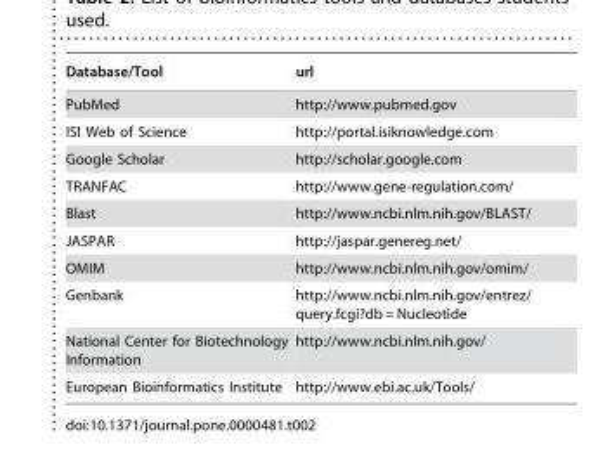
<table><thead><tr><td>Database/Tool</td><td>url</td></tr></thead><tbody><tr><td>PubMed</td><td>http://www.pubmed.gov</td></tr><tr><td>ISI Web of Science</td><td>http://portal.isiknowledge.com</td></tr><tr><td>Google Scholar</td><td>http://scholar.google.com</td></tr><tr><td>TRANFAC</td><td>http://www.gene-regulation.com/</td></tr><tr><td>Blast</td><td>http://www.ncbi.nlm.nih.gov/BLAST/</td></tr><tr><td>JASPAR</td><td>http://jaspar.genereg.net/</td></tr><tr><td>OMIM</td><td>http://www.ncbi.nlm.nih.gov/omim/</td></tr><tr><td>Genbank</td><td>http://www.ncbi.nlm.nih.gov/entrez/ query.fcgi?db = Nucleotide</td></tr><tr><td>National Center for Biotechnology Information</td><td>http://www.ncbi.nlm.nih.gov/</td></tr><tr><td>European Bioinformatics Institute</td><td>http://www.ebi.ac.uk/Tools/</td></tr></tbody></table>